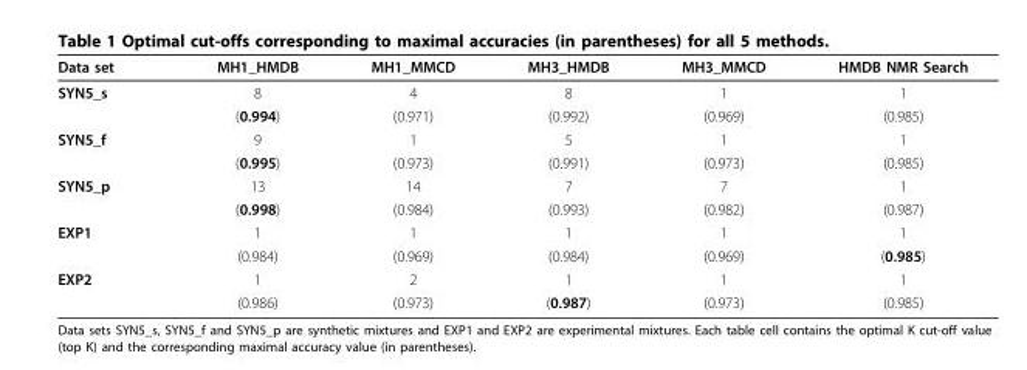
<table><thead><tr><td>Data set</td><td>MH1_HMDB</td><td>MH1_MMCD</td><td>MH3_HMDB</td><td>MH3_MMCD</td><td>HMDB NMR Search</td></tr></thead><tbody><tr><td rowspan="2">SYN5_s</td><td>8</td><td>4</td><td>8</td><td>1</td><td>1</td></tr><tr><td>(0.994)</td><td>(0.971)</td><td>(0.992)</td><td>(0.969)</td><td>(0.985)</td></tr><tr><td rowspan="2">SYN5_f</td><td>9</td><td>1</td><td>5</td><td>1</td><td>1</td></tr><tr><td>(0.995)</td><td>(0.973)</td><td>(0.991)</td><td>(0.973)</td><td>(0.985)</td></tr><tr><td rowspan="2">SYN5_p</td><td>13</td><td>14</td><td>7</td><td>7</td><td>1</td></tr><tr><td>(0.998)</td><td>(0.984)</td><td>(0.993)</td><td>(0.982)</td><td>(0.987)</td></tr><tr><td rowspan="2">EXP1</td><td>1</td><td>1</td><td>1</td><td>1</td><td>1</td></tr><tr><td>(0.984)</td><td>(0.969)</td><td>(0.984)</td><td>(0.969)</td><td>(0.985)</td></tr><tr><td rowspan="2">EXP2</td><td>1</td><td>2</td><td>1</td><td>1</td><td>1</td></tr><tr><td>(0.986)</td><td>(0.973)</td><td>(0.987)</td><td>(0.973)</td><td>(0.985)</td></tr></tbody></table>